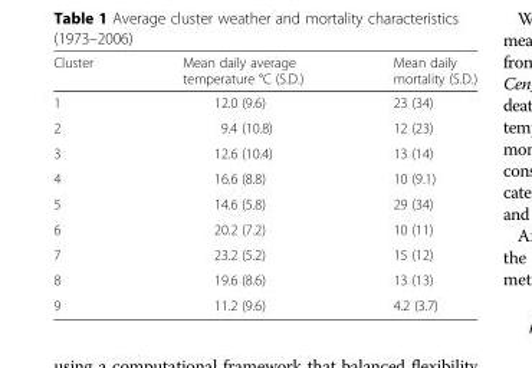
<table><thead><tr><td>Cluster</td><td>Mean daily average temperature °C (S.D.)</td><td>Mean daily mortality (S.D.)</td></tr></thead><tbody><tr><td>1</td><td>12.0 (9.6)</td><td>23 (34)</td></tr><tr><td>2</td><td>9.4 (10.8)</td><td>12 (23)</td></tr><tr><td>3</td><td>12.6 (10.4)</td><td>13 (14)</td></tr><tr><td>4</td><td>16.6 (8.8)</td><td>10 (9.1)</td></tr><tr><td>5</td><td>14.6 (5.8)</td><td>29 (34)</td></tr><tr><td>6</td><td>20.2 (7.2)</td><td>10 (11)</td></tr><tr><td>7</td><td>23.2 (5.2)</td><td>15 (12)</td></tr><tr><td>8</td><td>19.6 (8.6)</td><td>13 (13)</td></tr><tr><td>9</td><td>11.2 (9.6)</td><td>4.2 (3.7)</td></tr></tbody></table>